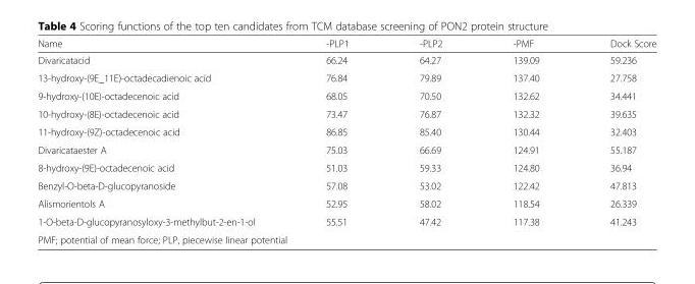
<table><thead><tr><td>Name</td><td>-PLP1</td><td>-PLP2</td><td>-PMF</td><td>Dock Score</td></tr></thead><tbody><tr><td>Divaricatacid</td><td>66.24</td><td>64.27</td><td>139.09</td><td>59.236</td></tr><tr><td>13-hydroxy-(9E_11E)-octadecadienoic acid</td><td>76.84</td><td>79.89</td><td>137.40</td><td>27.758</td></tr><tr><td>9-hydroxy-(10E)-octadecenoic acid</td><td>68.05</td><td>70.50</td><td>132.62</td><td>34.441</td></tr><tr><td>10-hydroxy-(8E)-octadecenoic acid</td><td>73.47</td><td>76.87</td><td>132.32</td><td>39.635</td></tr><tr><td>11-hydroxy-(9Z)-octadecenoic acid</td><td>86.85</td><td>85.40</td><td>130.44</td><td>32.403</td></tr><tr><td>Divaricataester A</td><td>75.03</td><td>66.69</td><td>124.91</td><td>55.187</td></tr><tr><td>8-hydroxy-(9E)-octadecenoic acid</td><td>51.03</td><td>59.33</td><td>124.80</td><td>36.94</td></tr><tr><td>Benzyl-O-beta-D-glucopyranoside</td><td>57.08</td><td>53.02</td><td>122.42</td><td>47.813</td></tr><tr><td>Alismorientols A</td><td>52.95</td><td>58.02</td><td>118.54</td><td>26.339</td></tr><tr><td>1-O-beta-D-glucopyranosyloxy-3-methylbut-2-en-1-ol</td><td>55.51</td><td>47.42</td><td>117.38</td><td>41.243</td></tr><tr><td colspan="5">PMF; potential of mean force; PLP, piecewise linear potential</td></tr></tbody></table>